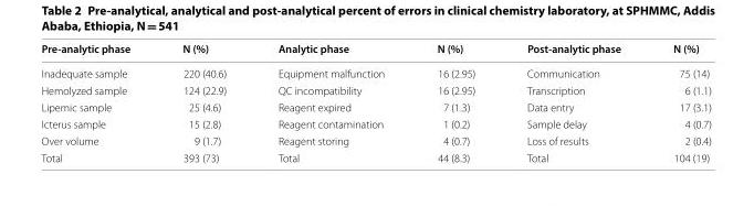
<table><thead><tr><td>Pre-analytic phase</td><td>N (%)</td><td>Analytic phase</td><td>N (%)</td><td>Post-analytic phase</td><td>N (%)</td></tr></thead><tbody><tr><td>Inadequate sample</td><td>220 (40.6)</td><td>Equipment malfunction</td><td>16 (2.95)</td><td>Communication</td><td>75 (14)</td></tr><tr><td>Hemolyzed sample</td><td>124 (22.9)</td><td>QC incompatibility</td><td>16 (2.95)</td><td>Transcription</td><td>6 (1.1)</td></tr><tr><td>Lipemic sample</td><td>25 (4.6)</td><td>Reagent expired</td><td>7 (1.3)</td><td>Data entry</td><td>17 (3.1)</td></tr><tr><td>Icterus sample</td><td>15 (2.8)</td><td>Reagent contamination</td><td>1 (0.2)</td><td>Sample delay</td><td>4 (0.7)</td></tr><tr><td>Over volume</td><td>9 (1.7)</td><td>Reagent storing</td><td>4 (0.7)</td><td>Loss of results</td><td>2 (0.4)</td></tr><tr><td>Total</td><td>393 (73)</td><td>Total</td><td>44 (8.3)</td><td>Total</td><td>104 (19)</td></tr></tbody></table>